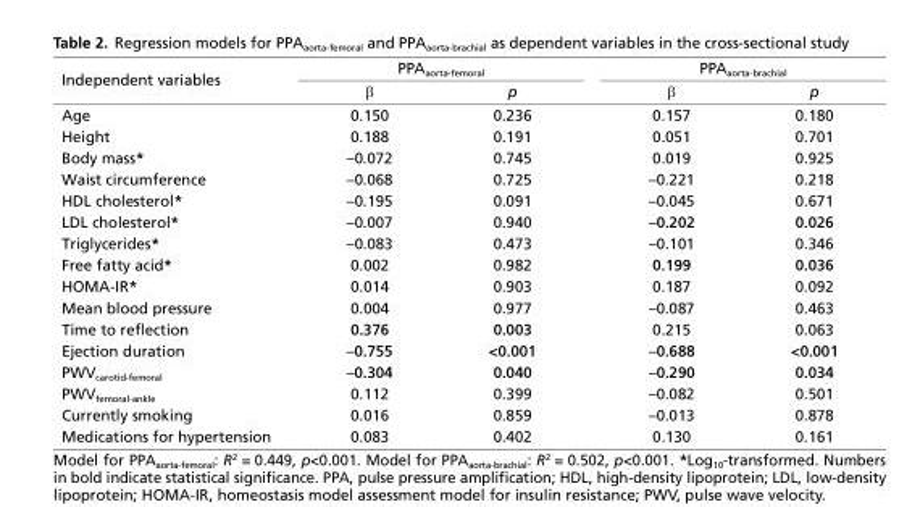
<table><thead><tr><td rowspan="2">Independent variables</td><td colspan="2">PPA<sub>aorta-femoral</sub></td><td colspan="2">PPA<sub>aorta-brachial</sub></td></tr><tr><td>β</td><td>p</td><td>β</td><td>p</td></tr></thead><tbody><tr><td>Age</td><td>0.150</td><td>0.236</td><td>0.157</td><td>0.180</td></tr><tr><td>Height</td><td>0.188</td><td>0.191</td><td>0.051</td><td>0.701</td></tr><tr><td>Body mass*</td><td>–0.072</td><td>0.745</td><td>0.019</td><td>0.925</td></tr><tr><td>Waist circumference</td><td>–0.068</td><td>0.725</td><td>–0.221</td><td>0.218</td></tr><tr><td>HDL cholesterol*</td><td>–0.195</td><td>0.091</td><td>–0.045</td><td>0.671</td></tr><tr><td>LDL cholesterol*</td><td>–0.007</td><td>0.940</td><td>–0.202</td><td>0.026</td></tr><tr><td>Triglycerides*</td><td>–0.083</td><td>0.473</td><td>–0.101</td><td>0.346</td></tr><tr><td>Free fatty acid*</td><td>0.002</td><td>0.982</td><td>0.199</td><td>0.036</td></tr><tr><td>HOMA-IR*</td><td>0.014</td><td>0.903</td><td>0.187</td><td>0.092</td></tr><tr><td>Mean blood pressure</td><td>0.004</td><td>0.977</td><td>–0.087</td><td>0.463</td></tr><tr><td>Time to reflection</td><td>0.376</td><td>0.003</td><td>0.215</td><td>0.063</td></tr><tr><td>Ejection duration</td><td>–0.755</td><td>&lt;0.001</td><td>–0.688</td><td>&lt;0.001</td></tr><tr><td>PWV<sub>carotid-femoral</sub></td><td>–0.304</td><td>0.040</td><td>–0.290</td><td>0.034</td></tr><tr><td>PWV<sub>femoral-ankle</sub></td><td>0.112</td><td>0.399</td><td>–0.082</td><td>0.501</td></tr><tr><td>Currently smoking</td><td>0.016</td><td>0.859</td><td>–0.013</td><td>0.878</td></tr><tr><td>Medications for hypertension</td><td>0.083</td><td>0.402</td><td>0.130</td><td>0.161</td></tr></tbody></table>